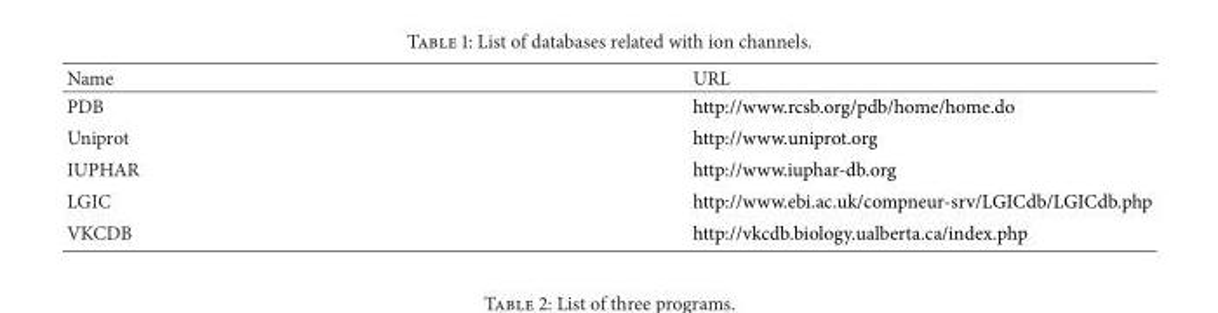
<table><thead><tr><td>Name</td><td>URL</td></tr></thead><tbody><tr><td>PDB</td><td>http://www.rcsb.org/pdb/home/home.do</td></tr><tr><td>Uniprot</td><td>http://www.uniprot.org</td></tr><tr><td>IUPHAR</td><td>http://www.iuphar-db.org</td></tr><tr><td>LGIC</td><td>http://www.ebi.ac.uk/compneur-srv/LGICdb/LGICdb.php</td></tr><tr><td>VKCDB</td><td>http://vkcdb.biology.ualberta.ca/index.php</td></tr></tbody></table>